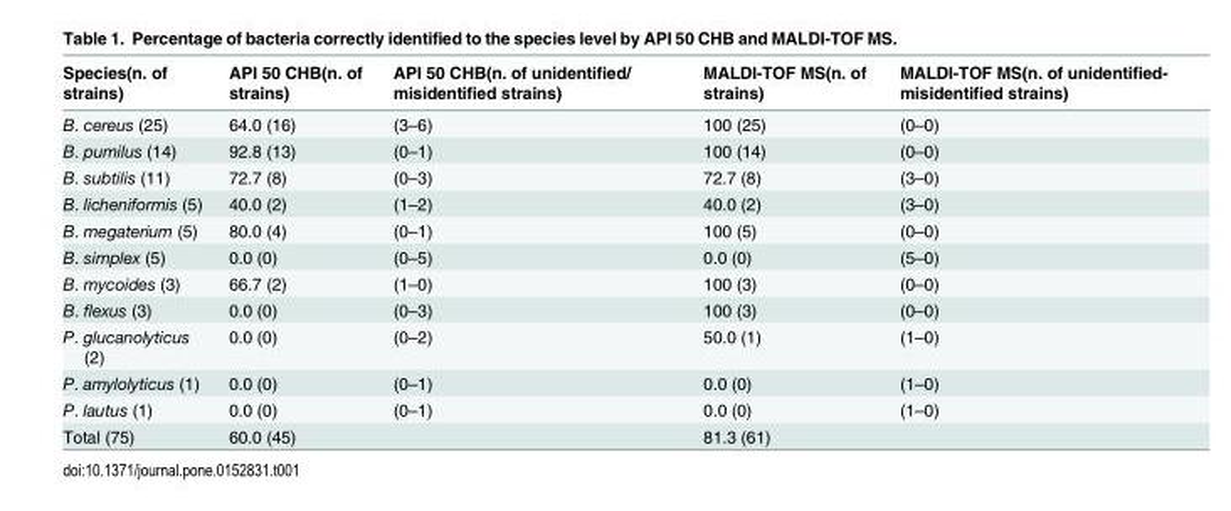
<table><thead><tr><td>Species(n. of strains)</td><td>API 50 CHB(n. of strains)</td><td>API 50 CHB(n. of unidentified/ misidentified strains)</td><td>MALDI-TOF MS(n. of strains)</td><td>MALDI-TOF MS(n. of unidentified- misidentified strains)</td></tr></thead><tbody><tr><td>B. cereus (25)</td><td>64.0 (16)</td><td>(3–6)</td><td>100 (25)</td><td>(0–0)</td></tr><tr><td>B. pumilus (14)</td><td>92.8 (13)</td><td>(0–1)</td><td>100 (14)</td><td>(0–0)</td></tr><tr><td>B. subtilis (11)</td><td>72.7 (8)</td><td>(0–3)</td><td>72.7 (8)</td><td>(3–0)</td></tr><tr><td>B. licheniformis (5)</td><td>40.0 (2)</td><td>(1–2)</td><td>40.0 (2)</td><td>(3–0)</td></tr><tr><td>B. megaterium (5)</td><td>80.0 (4)</td><td>(0–1)</td><td>100 (5)</td><td>(0–0)</td></tr><tr><td>B. simplex (5)</td><td>0.0 (0)</td><td>(0–5)</td><td>0.0 (0)</td><td>(5–0)</td></tr><tr><td>B. mycoides (3)</td><td>66.7 (2)</td><td>(1–0)</td><td>100 (3)</td><td>(0–0)</td></tr><tr><td>B. flexus (3)</td><td>0.0 (0)</td><td>(0–3)</td><td>100 (3)</td><td>(0–0)</td></tr><tr><td>P. glucanolyticus (2)</td><td>0.0 (0)</td><td>(0–2)</td><td>50.0 (1)</td><td>(1–0)</td></tr><tr><td>P. amylolyticus (1)</td><td>0.0 (0)</td><td>(0–1)</td><td>0.0 (0)</td><td>(1–0)</td></tr><tr><td>P. lautus (1)</td><td>0.0 (0)</td><td>(0–1)</td><td>0.0 (0)</td><td>(1–0)</td></tr><tr><td>Total (75)</td><td>60.0 (45)</td><td></td><td>81.3 (61)</td><td></td></tr></tbody></table>